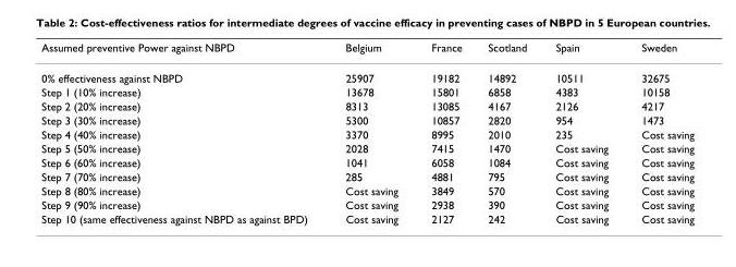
<table><thead><tr><td>Assumed preventive Power against NBPD</td><td>Belgium</td><td>France</td><td>Scotland</td><td>Spain</td><td>Sweden</td></tr></thead><tbody><tr><td>0% effectiveness against NBPD</td><td>25907</td><td>19182</td><td>14892</td><td>10511</td><td>32675</td></tr><tr><td>Step 1 (10% increase)</td><td>13678</td><td>15801</td><td>6858</td><td>4383</td><td>10158</td></tr><tr><td>Step 2 (20% increase)</td><td>8313</td><td>13085</td><td>4167</td><td>2126</td><td>4217</td></tr><tr><td>Step 3 (30% increase)</td><td>5300</td><td>10857</td><td>2820</td><td>954</td><td>1473</td></tr><tr><td>Step 4 (40% increase)</td><td>3370</td><td>8995</td><td>2010</td><td>235</td><td>Cost saving</td></tr><tr><td>Step 5 (50% increase)</td><td>2028</td><td>7415</td><td>1470</td><td>Cost saving</td><td>Cost saving</td></tr><tr><td>Step 6 (60% increase)</td><td>1041</td><td>6058</td><td>1084</td><td>Cost saving</td><td>Cost saving</td></tr><tr><td>Step 7 (70% increase)</td><td>285</td><td>4881</td><td>795</td><td>Cost saving</td><td>Cost saving</td></tr><tr><td>Step 8 (80% increase)</td><td>Cost saving</td><td>3849</td><td>570</td><td>Cost saving</td><td>Cost saving</td></tr><tr><td>Step 9 (90% increase)</td><td>Cost saving</td><td>2938</td><td>390</td><td>Cost saving</td><td>Cost saving</td></tr><tr><td>Step 10 (same effectiveness against NBPD as against BPD)</td><td>Cost saving</td><td>2127</td><td>242</td><td>Cost saving</td><td>Cost saving</td></tr></tbody></table>